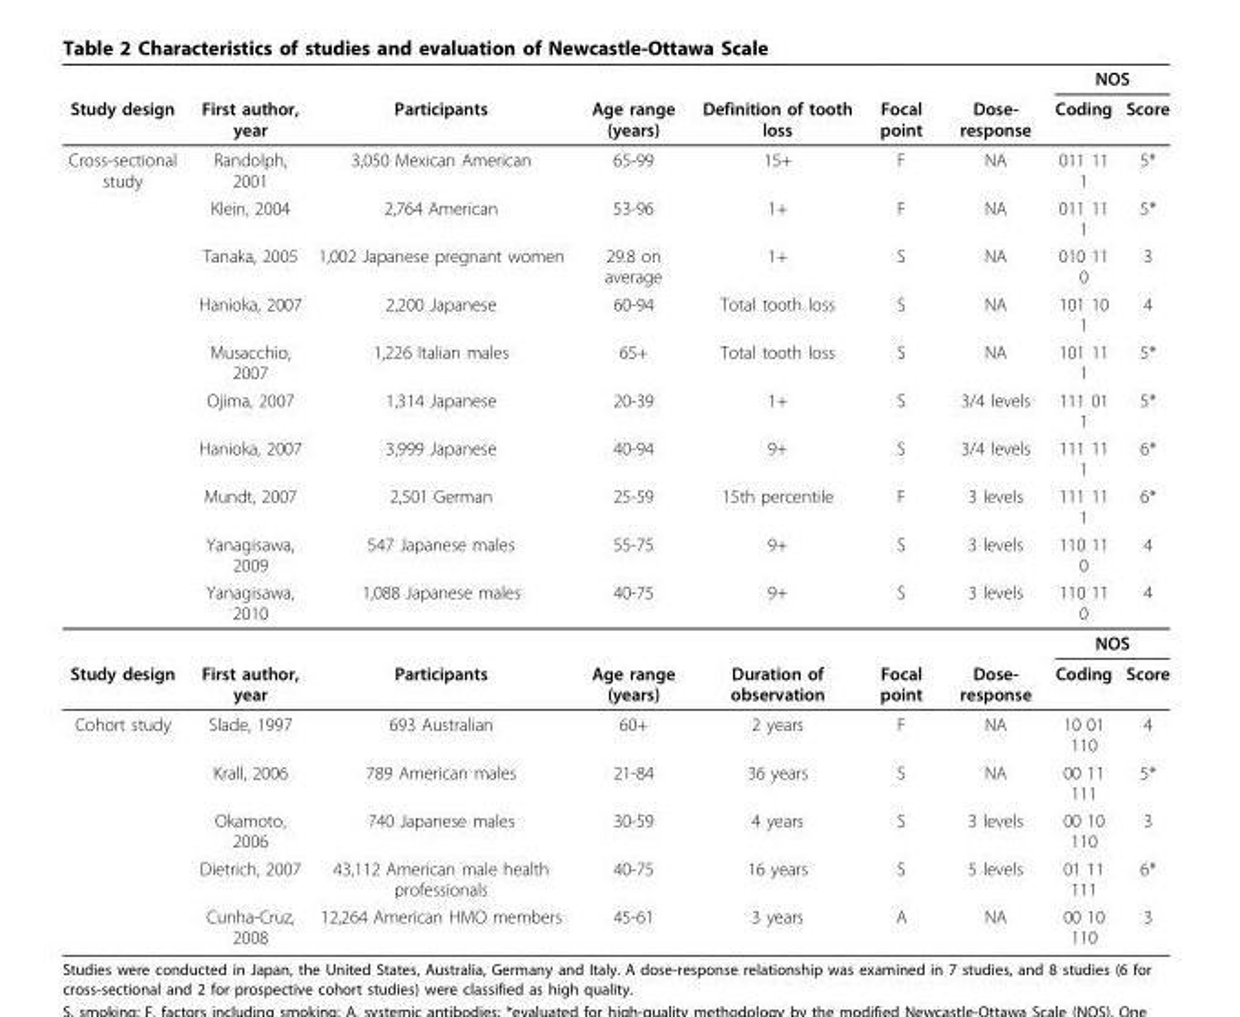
<table><thead><tr><td rowspan="2">Study design</td><td rowspan="2">First author, year</td><td rowspan="2">Participants</td><td rowspan="2">Age range (years)</td><td rowspan="2">Definition of tooth loss</td><td rowspan="2">Focal point</td><td rowspan="2">Dose- response</td><td colspan="2">NOS</td></tr><tr><td>Coding</td><td>Score</td></tr></thead><tbody><tr><td rowspan="11">Cross-sectional study</td><td>Randolph, 2001</td><td>3,050 Mexican American</td><td>65-99</td><td>15+</td><td>F</td><td>NA</td><td>011 11 1</td><td>5*</td></tr><tr><td>Klein, 2004</td><td>2,764 American</td><td>53-96</td><td>1+</td><td>F</td><td>NA</td><td>011 11 1</td><td>5*</td></tr><tr><td>Tanaka, 2005</td><td>1,002 Japanese pregnant women</td><td>29.8 on average</td><td>1+</td><td>S</td><td>NA</td><td>010 11 0</td><td>3</td></tr><tr><td>Hanioka, 2007</td><td>2,200 Japanese</td><td>60-94</td><td>Total tooth loss</td><td>S</td><td>NA</td><td>101 10 1</td><td>4</td></tr><tr><td>Musacchio, 2007</td><td>1,226 Italian males</td><td>65+</td><td>Total tooth loss</td><td>S</td><td>NA</td><td>101 11 1</td><td>5*</td></tr><tr><td>Ojima, 2007</td><td>1,314 Japanese</td><td>20-39</td><td>1+</td><td>S</td><td>3/4 levels</td><td>111 01 1</td><td>5*</td></tr><tr><td>Hanioka, 2007</td><td>3,999 Japanese</td><td>40-94</td><td>9+</td><td>S</td><td>3/4 levels</td><td>111 11 1</td><td>6*</td></tr><tr><td>Mundt, 2007</td><td>2,501 German</td><td>25-59</td><td>15th percentile</td><td>F</td><td>3 levels</td><td>111 11 1</td><td>6*</td></tr><tr><td>Yanagisawa, 2009</td><td>547 Japanese males</td><td>55-75</td><td>9+</td><td>S</td><td>3 levels</td><td>110 11 0</td><td>4</td></tr><tr><td>Yanagisawa, 2010</td><td>1,088 Japanese males</td><td>40-75</td><td>9+</td><td>S</td><td>3 levels</td><td>110 11 0</td><td>4</td></tr><tr><td></td><td></td><td></td><td></td><td></td><td></td><td colspan="2">NOS</td></tr><tr><td>Study design</td><td>First author, year</td><td>Participants</td><td>Age range (years)</td><td>Duration of observation</td><td>Focal point</td><td>Dose- response</td><td>Coding</td><td>Score</td></tr><tr><td rowspan="5">Cohort study</td><td>Slade, 1997</td><td>693 Australian</td><td>60+</td><td>2 years</td><td>F</td><td>NA</td><td>10 01 110</td><td>4</td></tr><tr><td>Krall, 2006</td><td>789 American males</td><td>21-84</td><td>36 years</td><td>S</td><td>NA</td><td>00 11 111</td><td>5*</td></tr><tr><td>Okamoto, 2006</td><td>740 Japanese males</td><td>30-59</td><td>4 years</td><td>S</td><td>3 levels</td><td>00 10 110</td><td>3</td></tr><tr><td>Dietrich, 2007</td><td>43,112 American male health professionals</td><td>40-75</td><td>16 years</td><td>S</td><td>5 levels</td><td>01 11 111</td><td>6*</td></tr><tr><td>Cunha-Cruz, 2008</td><td>12,264 American HMO members</td><td>45-61</td><td>3 years</td><td>A</td><td>NA</td><td>00 10 110</td><td>3</td></tr></tbody></table>